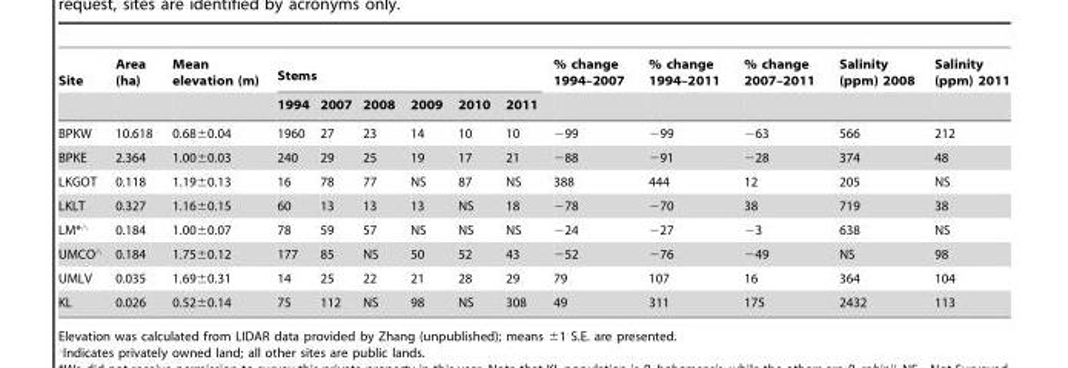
<table><thead><tr><td rowspan="2">Site</td><td rowspan="2">Area (ha)</td><td rowspan="2">Mean elevation (m)</td><td colspan="6">Stems</td><td rowspan="2">% change 1994–2007</td><td rowspan="2">% change 1994–2011</td><td rowspan="2">% change 2007–2011</td><td rowspan="2">Salinity (ppm) 2008</td><td rowspan="2">Salinity (ppm) 2011</td></tr><tr><td>1994</td><td>2007</td><td>2008</td><td>2009</td><td>2010</td><td>2011</td></tr></thead><tbody><tr><td>BPKW</td><td>10.618</td><td>0.68±0.04</td><td>1960</td><td>27</td><td>23</td><td>14</td><td>10</td><td>10</td><td>−99</td><td>−99</td><td>−63</td><td>566</td><td>212</td></tr><tr><td>BPKE</td><td>2.364</td><td>1.00±0.03</td><td>240</td><td>29</td><td>25</td><td>19</td><td>17</td><td>21</td><td>−88</td><td>−91</td><td>−28</td><td>374</td><td>48</td></tr><tr><td>LKGOT</td><td>0.118</td><td>1.19±0.13</td><td>16</td><td>78</td><td>77</td><td>NS</td><td>87</td><td>NS</td><td>388</td><td>444</td><td>12</td><td>205</td><td>NS</td></tr><tr><td>LKLT</td><td>0.327</td><td>1.16±0.15</td><td>60</td><td>13</td><td>13</td><td>13</td><td>NS</td><td>18</td><td>−78</td><td>−70</td><td>38</td><td>719</td><td>38</td></tr><tr><td>LM*‘</td><td>0.184</td><td>1.00±0.07</td><td>78</td><td>59</td><td>57</td><td>NS</td><td>NS</td><td>NS</td><td>−24</td><td>−27</td><td>−3</td><td>638</td><td>NS</td></tr><tr><td>UMCO‘</td><td>0.184</td><td>1.75±0.12</td><td>177</td><td>85</td><td>NS</td><td>50</td><td>52</td><td>43</td><td>−52</td><td>−76</td><td>−49</td><td>NS</td><td>98</td></tr><tr><td>UMLV</td><td>0.035</td><td>1.69±0.31</td><td>14</td><td>25</td><td>22</td><td>21</td><td>28</td><td>29</td><td>79</td><td>107</td><td>16</td><td>364</td><td>104</td></tr><tr><td>KL</td><td>0.026</td><td>0.52±0.14</td><td>75</td><td>112</td><td>NS</td><td>98</td><td>NS</td><td>308</td><td>49</td><td>311</td><td>175</td><td>2432</td><td>113</td></tr></tbody></table>